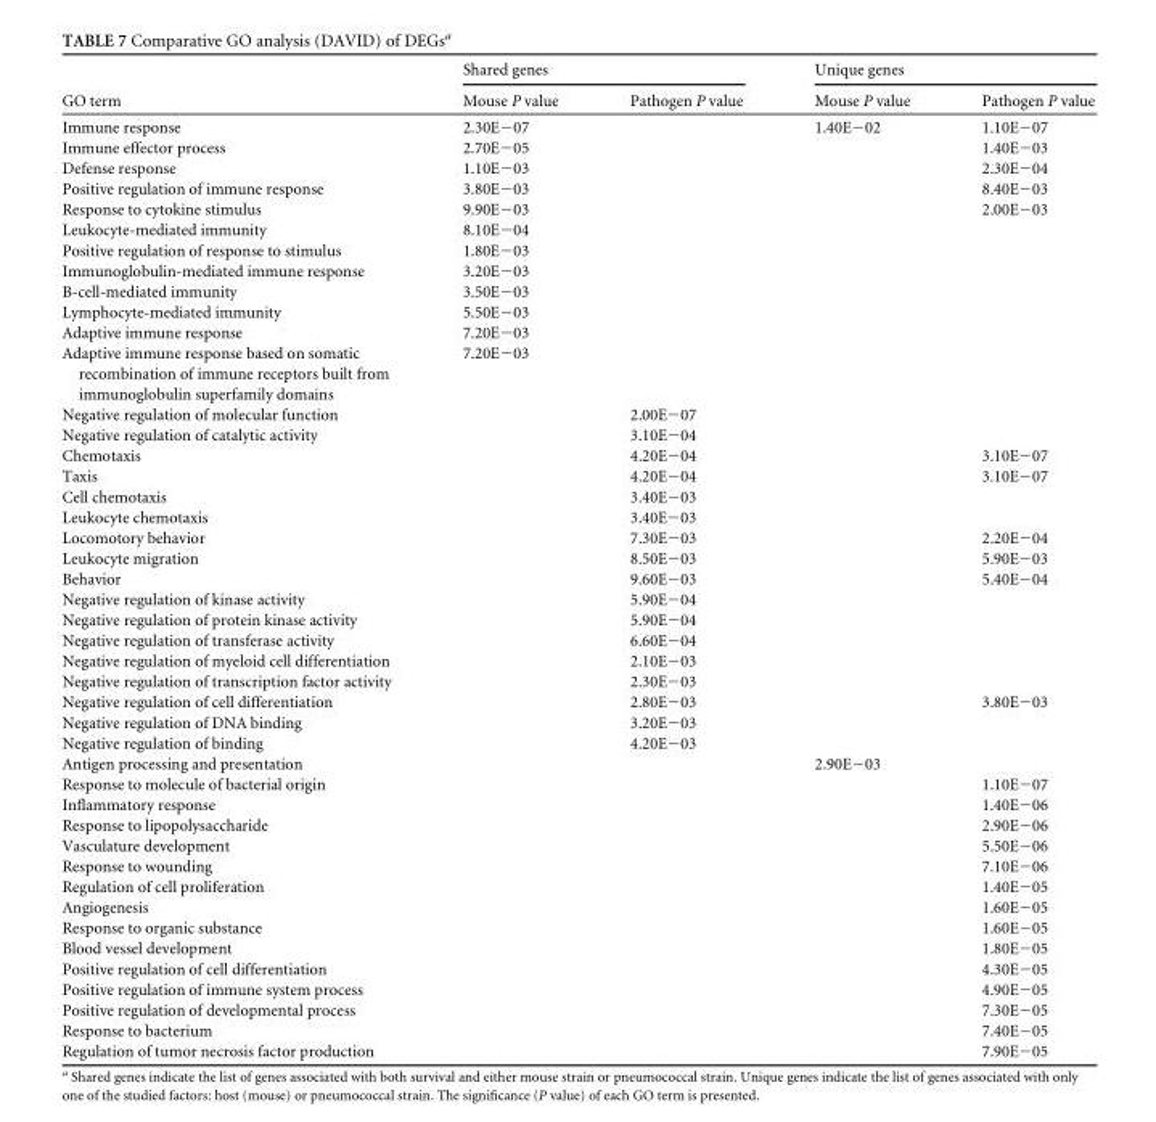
<table><thead><tr><td rowspan="2">GO term</td><td colspan="2">Shared genes</td><td colspan="2">Unique genes</td></tr><tr><td>Mouse P value</td><td>Pathogen P value</td><td>Mouse P value</td><td>Pathogen P value</td></tr></thead><tbody><tr><td>Immune response</td><td>2.30E−07</td><td></td><td>1.40E−02</td><td>1.10E−07</td></tr><tr><td>Immune effector process</td><td>2.70E−05</td><td></td><td></td><td>1.40E−03</td></tr><tr><td>Defense response</td><td>1.10E−03</td><td></td><td></td><td>2.30E−04</td></tr><tr><td>Positive regulation of immune response</td><td>3.80E−03</td><td></td><td></td><td>8.40E−03</td></tr><tr><td>Response to cytokine stimulus</td><td>9.90E−03</td><td></td><td></td><td>2.00E−03</td></tr><tr><td>Leukocyte-mediated immunity</td><td>8.10E−04</td><td></td><td></td><td></td></tr><tr><td>Positive regulation of response to stimulus</td><td>1.80E−03</td><td></td><td></td><td></td></tr><tr><td>Immunoglobulin-mediated immune response</td><td>3.20E−03</td><td></td><td></td><td></td></tr><tr><td>B-cell-mediated immunity</td><td>3.50E−03</td><td></td><td></td><td></td></tr><tr><td>Lymphocyte-mediated immunity</td><td>5.50E−03</td><td></td><td></td><td></td></tr><tr><td>Adaptive immune response</td><td>7.20E−03</td><td></td><td></td><td></td></tr><tr><td>Adaptive immune response based on somatic recombination of immune receptors built from immunoglobulin superfamily domains</td><td>7.20E−03</td><td></td><td></td><td></td></tr><tr><td>Negative regulation of molecular function</td><td></td><td>2.00E−07</td><td></td><td></td></tr><tr><td>Negative regulation of catalytic activity</td><td></td><td>3.10E−04</td><td></td><td></td></tr><tr><td>Chemotaxis</td><td></td><td>4.20E−04</td><td></td><td>3.10E−07</td></tr><tr><td>Taxis</td><td></td><td>4.20E−04</td><td></td><td>3.10E−07</td></tr><tr><td>Cell chemotaxis</td><td></td><td>3.40E−03</td><td></td><td></td></tr><tr><td>Leukocyte chemotaxis</td><td></td><td>3.40E−03</td><td></td><td></td></tr><tr><td>Locomotory behavior</td><td></td><td>7.30E−03</td><td></td><td>2.20E−04</td></tr><tr><td>Leukocyte migration</td><td></td><td>8.50E−03</td><td></td><td>5.90E−03</td></tr><tr><td>Behavior</td><td></td><td>9.60E−03</td><td></td><td>5.40E−04</td></tr><tr><td>Negative regulation of kinase activity</td><td></td><td>5.90E−04</td><td></td><td></td></tr><tr><td>Negative regulation of protein kinase activity</td><td></td><td>5.90E−04</td><td></td><td></td></tr><tr><td>Negative regulation of transferase activity</td><td></td><td>6.60E−04</td><td></td><td></td></tr><tr><td>Negative regulation of myeloid cell differentiation</td><td></td><td>2.10E−03</td><td></td><td></td></tr><tr><td>Negative regulation of transcription factor activity</td><td></td><td>2.30E−03</td><td></td><td></td></tr><tr><td>Negative regulation of cell differentiation</td><td></td><td>2.80E−03</td><td></td><td>3.80E−03</td></tr><tr><td>Negative regulation of DNA binding</td><td></td><td>3.20E−03</td><td></td><td></td></tr><tr><td>Negative regulation of binding</td><td></td><td>4.20E−03</td><td></td><td></td></tr><tr><td>Antigen processing and presentation</td><td></td><td></td><td>2.90E−03</td><td></td></tr><tr><td>Response to molecule of bacterial origin</td><td></td><td></td><td></td><td>1.10E−07</td></tr><tr><td>Inflammatory response</td><td></td><td></td><td></td><td>1.40E−06</td></tr><tr><td>Response to lipopolysaccharide</td><td></td><td></td><td></td><td>2.90E−06</td></tr><tr><td>Vasculature development</td><td></td><td></td><td></td><td>5.50E−06</td></tr><tr><td>Response to wounding</td><td></td><td></td><td></td><td>7.10E−06</td></tr><tr><td>Regulation of cell proliferation</td><td></td><td></td><td></td><td>1.40E−05</td></tr><tr><td>Angiogenesis</td><td></td><td></td><td></td><td>1.60E−05</td></tr><tr><td>Response to organic substance</td><td></td><td></td><td></td><td>1.60E−05</td></tr><tr><td>Blood vessel development</td><td></td><td></td><td></td><td>1.80E−05</td></tr><tr><td>Positive regulation of cell differentiation</td><td></td><td></td><td></td><td>4.30E−05</td></tr><tr><td>Positive regulation of immune system process</td><td></td><td></td><td></td><td>4.90E−05</td></tr><tr><td>Positive regulation of developmental process</td><td></td><td></td><td></td><td>7.30E−05</td></tr><tr><td>Response to bacterium</td><td></td><td></td><td></td><td>7.40E−05</td></tr><tr><td>Regulation of tumor necrosis factor production</td><td></td><td></td><td></td><td>7.90E−05</td></tr></tbody></table>